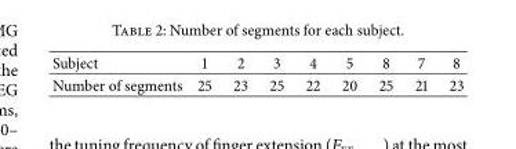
<table><thead><tr><td>Subject</td><td>1</td><td>2</td><td>3</td><td>4</td><td>5</td><td>8</td><td>7</td><td>8</td></tr></thead><tbody><tr><td>Number of segments</td><td>25</td><td>23</td><td>25</td><td>22</td><td>20</td><td>25</td><td>21</td><td>23</td></tr></tbody></table>